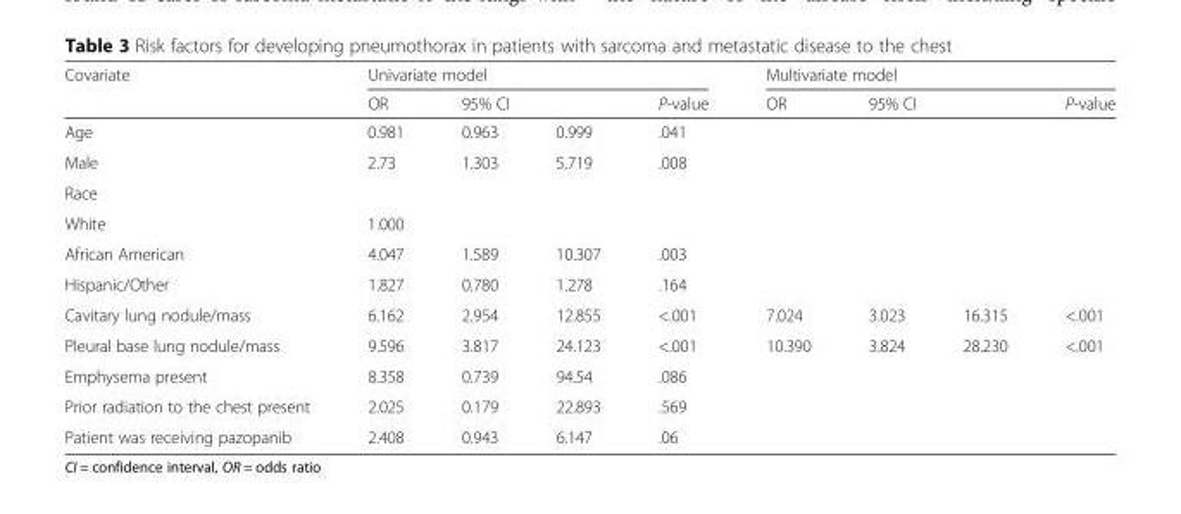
<table><thead><tr><td rowspan="2">Covariate</td><td colspan="4">Univariate model</td><td colspan="4">Multivariate model</td></tr><tr><td>OR</td><td colspan="2">95% CI</td><td>P-value</td><td>OR</td><td colspan="2">95% CI</td><td>P-value</td></tr></thead><tbody><tr><td>Age</td><td>0.981</td><td>0.963</td><td>0.999</td><td>.041</td><td rowspan="6" colspan="4"></td></tr><tr><td>Male</td><td>2.73</td><td>1.303</td><td>5.719</td><td>.008</td></tr><tr><td colspan="5">Race</td></tr><tr><td>White</td><td>1.000</td><td></td><td></td><td></td></tr><tr><td>African American</td><td>4.047</td><td>1.589</td><td>10.307</td><td>.003</td></tr><tr><td>Hispanic/Other</td><td>1.827</td><td>0.780</td><td>1.278</td><td>.164</td></tr><tr><td>Cavitary lung nodule/mass</td><td>6.162</td><td>2.954</td><td>12.855</td><td>&lt;.001</td><td>7.024</td><td>3.023</td><td>16.315</td><td>&lt;.001</td></tr><tr><td>Pleural base lung nodule/mass</td><td>9.596</td><td>3.817</td><td>24.123</td><td>&lt;.001</td><td>10.390</td><td>3.824</td><td>28.230</td><td>&lt;.001</td></tr><tr><td>Emphysema present</td><td>8.358</td><td>0.739</td><td>94.54</td><td>.086</td><td rowspan="3" colspan="4"></td></tr><tr><td>Prior radiation to the chest present</td><td>2.025</td><td>0.179</td><td>22.893</td><td>.569</td></tr><tr><td>Patient was receiving pazopanib</td><td>2.408</td><td>0.943</td><td>6.147</td><td>.06</td></tr></tbody></table>